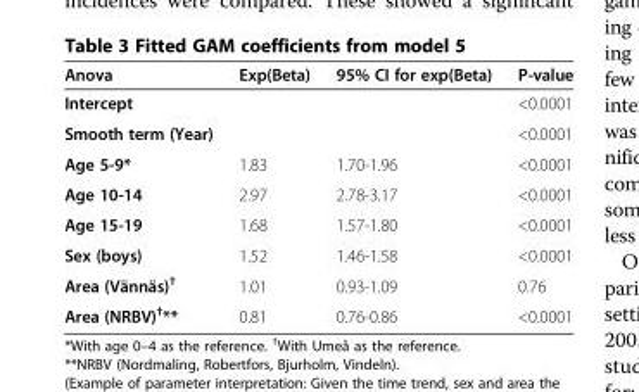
<table><thead><tr><td>Anova</td><td>Exp(Beta)</td><td>95% CI for exp(Beta)</td><td>P-value</td></tr></thead><tbody><tr><td>Intercept</td><td></td><td></td><td>&lt;0.0001</td></tr><tr><td>Smooth term (Year)</td><td></td><td></td><td>&lt;0.0001</td></tr><tr><td>Age 5-9*</td><td>1.83</td><td>1.70-1.96</td><td>&lt;0.0001</td></tr><tr><td>Age 10-14</td><td>2.97</td><td>2.78-3.17</td><td>&lt;0.0001</td></tr><tr><td>Age 15-19</td><td>1.68</td><td>1.57-1.80</td><td>&lt;0.0001</td></tr><tr><td>Sex (boys)</td><td>1.52</td><td>1.46-1.58</td><td>&lt;0.0001</td></tr><tr><td>Area (Vännäs)<sup>†</sup></td><td>1.01</td><td>0.93-1.09</td><td>0.76</td></tr><tr><td>Area (NRBV)<sup>†</sup>**</td><td>0.81</td><td>0.76-0.86</td><td>&lt;0.0001</td></tr></tbody></table>